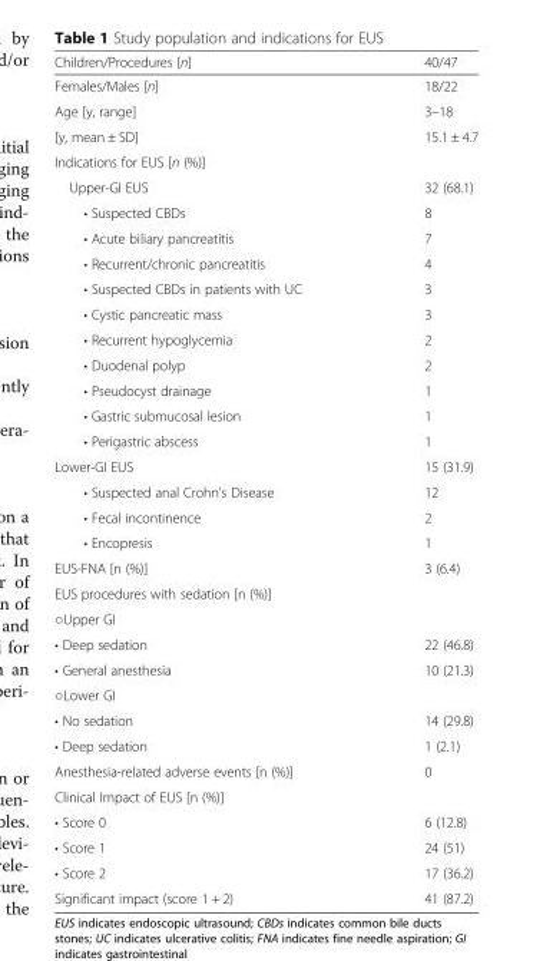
<table><thead><tr><td>Children/Procedures [n]</td><td>40/47</td></tr></thead><tbody><tr><td>Females/Males [n]</td><td>18/22</td></tr><tr><td>Age [y, range]</td><td>3–18</td></tr><tr><td>[y, mean ± SD]</td><td>15.1 ± 4.7</td></tr><tr><td colspan="2">Indications for EUS [n (%)]</td></tr><tr><td>Upper-GI EUS</td><td>32 (68.1)</td></tr><tr><td>• Suspected CBDs</td><td>8</td></tr><tr><td>• Acute biliary pancreatitis</td><td>7</td></tr><tr><td>• Recurrent/chronic pancreatitis</td><td>4</td></tr><tr><td>• Suspected CBDs in patients with UC</td><td>3</td></tr><tr><td>• Cystic pancreatic mass</td><td>3</td></tr><tr><td>• Recurrent hypoglycemia</td><td>2</td></tr><tr><td>• Duodenal polyp</td><td>2</td></tr><tr><td>• Pseudocyst drainage</td><td>1</td></tr><tr><td>• Gastric submucosal lesion</td><td>1</td></tr><tr><td>• Perigastric abscess</td><td>1</td></tr><tr><td>Lower-GI EUS</td><td>15 (31.9)</td></tr><tr><td>• Suspected anal Crohn’s Disease</td><td>12</td></tr><tr><td>• Fecal incontinence</td><td>2</td></tr><tr><td>• Encopresis</td><td>1</td></tr><tr><td>EUS-FNA [n (%)]</td><td>3 (6.4)</td></tr><tr><td colspan="2">EUS procedures with sedation [n (%)]</td></tr><tr><td colspan="2">○Upper GI</td></tr><tr><td>• Deep sedation</td><td>22 (46.8)</td></tr><tr><td>• General anesthesia</td><td>10 (21.3)</td></tr><tr><td colspan="2">○Lower GI</td></tr><tr><td>• No sedation</td><td>14 (29.8)</td></tr><tr><td>• Deep sedation</td><td>1 (2.1)</td></tr><tr><td>Anesthesia-related adverse events [n (%)]</td><td>0</td></tr><tr><td colspan="2">Clinical Impact of EUS [n (%)]</td></tr><tr><td>• Score 0</td><td>6 (12.8)</td></tr><tr><td>• Score 1</td><td>24 (51)</td></tr><tr><td>• Score 2</td><td>17 (36.2)</td></tr><tr><td>Significant impact (score 1 + 2)</td><td>41 (87.2)</td></tr></tbody></table>